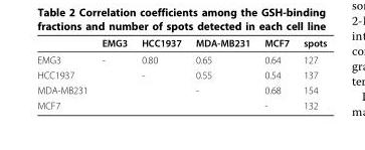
<table><thead><tr><td></td><td>EMG3</td><td>HCC1937</td><td>MDA-MB231</td><td>MCF7</td><td>spots</td></tr></thead><tbody><tr><td>EMG3</td><td>-</td><td>0.80</td><td>0.65</td><td>0.64</td><td>127</td></tr><tr><td>HCC1937</td><td></td><td>-</td><td>0.55</td><td>0.54</td><td>137</td></tr><tr><td>MDA-MB231</td><td></td><td></td><td>-</td><td>0.68</td><td>154</td></tr><tr><td>MCF7</td><td></td><td></td><td></td><td>-</td><td>132</td></tr></tbody></table>